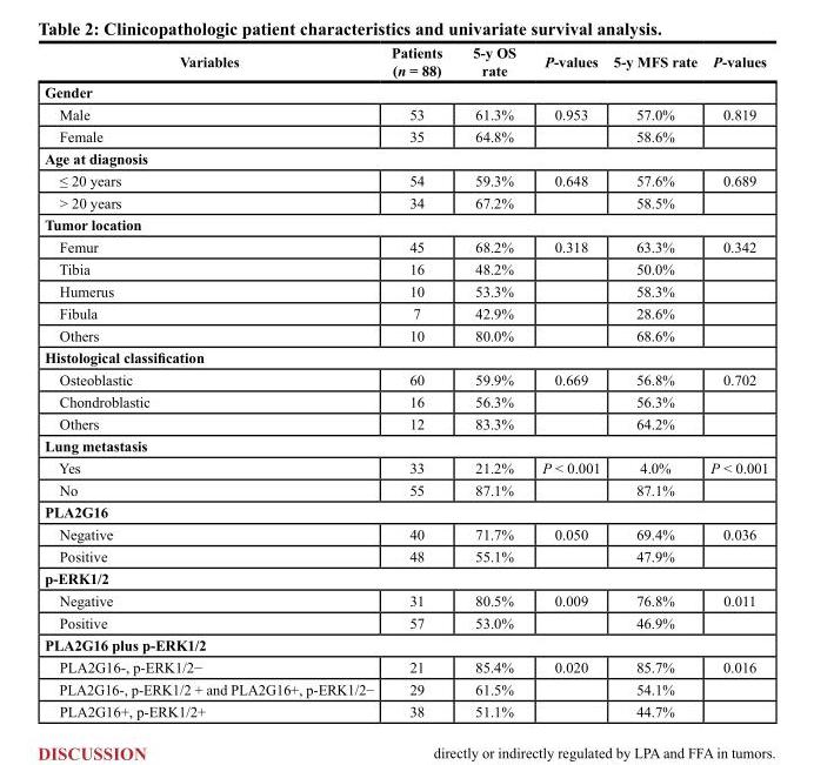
<table><thead><tr><td>Variables</td><td>Patients (n = 88)</td><td>5-y OS rate</td><td>P-values</td><td>5-y MFS rate</td><td>P-values</td></tr></thead><tbody><tr><td colspan="6">Gender</td></tr><tr><td>Male</td><td>53</td><td>61.3%</td><td>0.953</td><td>57.0%</td><td>0.819</td></tr><tr><td>Female</td><td>35</td><td>64.8%</td><td></td><td>58.6%</td><td></td></tr><tr><td colspan="6">Age at diagnosis</td></tr><tr><td>≤ 20 years</td><td>54</td><td>59.3%</td><td>0.648</td><td>57.6%</td><td>0.689</td></tr><tr><td>&gt; 20 years</td><td>34</td><td>67.2%</td><td></td><td>58.5%</td><td></td></tr><tr><td colspan="6">Tumor location</td></tr><tr><td>Femur</td><td>45</td><td>68.2%</td><td>0.318</td><td>63.3%</td><td>0.342</td></tr><tr><td>Tibia</td><td>16</td><td>48.2%</td><td></td><td>50.0%</td><td></td></tr><tr><td>Humerus</td><td>10</td><td>53.3%</td><td></td><td>58.3%</td><td></td></tr><tr><td>Fibula</td><td>7</td><td>42.9%</td><td></td><td>28.6%</td><td></td></tr><tr><td>Others</td><td>10</td><td>80.0%</td><td></td><td>68.6%</td><td></td></tr><tr><td colspan="6">Histological classification</td></tr><tr><td>Osteoblastic</td><td>60</td><td>59.9%</td><td>0.669</td><td>56.8%</td><td>0.702</td></tr><tr><td>Chondroblastic</td><td>16</td><td>56.3%</td><td></td><td>56.3%</td><td></td></tr><tr><td>Others</td><td>12</td><td>83.3%</td><td></td><td>64.2%</td><td></td></tr><tr><td colspan="6">Lung metastasis</td></tr><tr><td>Yes</td><td>33</td><td>21.2%</td><td>P &lt; 0.001</td><td>4.0%</td><td>P &lt; 0.001</td></tr><tr><td>No</td><td>55</td><td>87.1%</td><td></td><td>87.1%</td><td></td></tr><tr><td colspan="6">PLA2G16</td></tr><tr><td>Negative</td><td>40</td><td>71.7%</td><td>0.050</td><td>69.4%</td><td>0.036</td></tr><tr><td>Positive</td><td>48</td><td>55.1%</td><td></td><td>47.9%</td><td></td></tr><tr><td colspan="6">p-ERK1/2</td></tr><tr><td>Negative</td><td>31</td><td>80.5%</td><td>0.009</td><td>76.8%</td><td>0.011</td></tr><tr><td>Positive</td><td>57</td><td>53.0%</td><td></td><td>46.9%</td><td></td></tr><tr><td colspan="6">PLA2G16 plus p-ERK1/2</td></tr><tr><td>PLA2G16-, p-ERK1/2−</td><td>21</td><td>85.4%</td><td>0.020</td><td>85.7%</td><td>0.016</td></tr><tr><td>PLA2G16-, p-ERK1/2 + and PLA2G16+, p-ERK1/2−</td><td>29</td><td>61.5%</td><td></td><td>54.1%</td><td></td></tr><tr><td>PLA2G16+, p-ERK1/2+</td><td>38</td><td>51.1%</td><td></td><td>44.7%</td><td></td></tr></tbody></table>